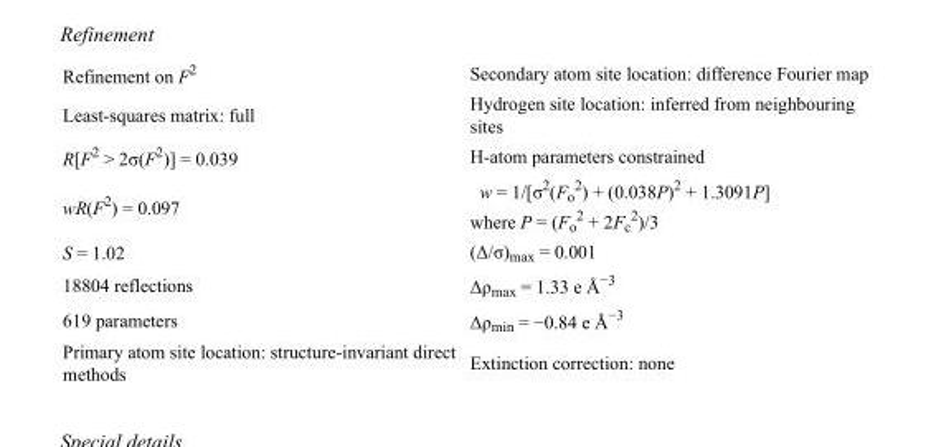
<table><tbody><tr><td>Refinement on F<sup>2</sup></td><td>Secondary atom site location: difference Fourier map</td></tr><tr><td>Least-squares matrix: full</td><td>Hydrogen site location: inferred from neighbouring sites</td></tr><tr><td>R[F<sup>2</sup> &gt; 2σ(F<sup>2</sup>)] = 0.039</td><td>H-atom parameters constrained</td></tr><tr><td>wR(F<sup>2</sup>) = 0.097</td><td>w = 1/[σ<sup>2</sup>(F<sub>o</sub> <sup>2</sup>) + (0.038P)<sup>2</sup> + 1.3091P] where P = (F<sub>o</sub> <sup>2</sup> + 2F<sub>c</sub> <sup>2</sup>)/3</td></tr><tr><td>S = 1.02</td><td>(Δ/σ)<sub>max</sub> = 0.001</td></tr><tr><td>18804 reflections</td><td>Δρ<sub>max</sub> = 1.33 e Å<sup>−3</sup></td></tr><tr><td>619 parameters</td><td>Δρ<sub>min</sub> = −0.84 e Å<sup>−3</sup></td></tr><tr><td>Primary atom site location: structure-invariant direct methods</td><td>Extinction correction: none</td></tr></tbody></table>